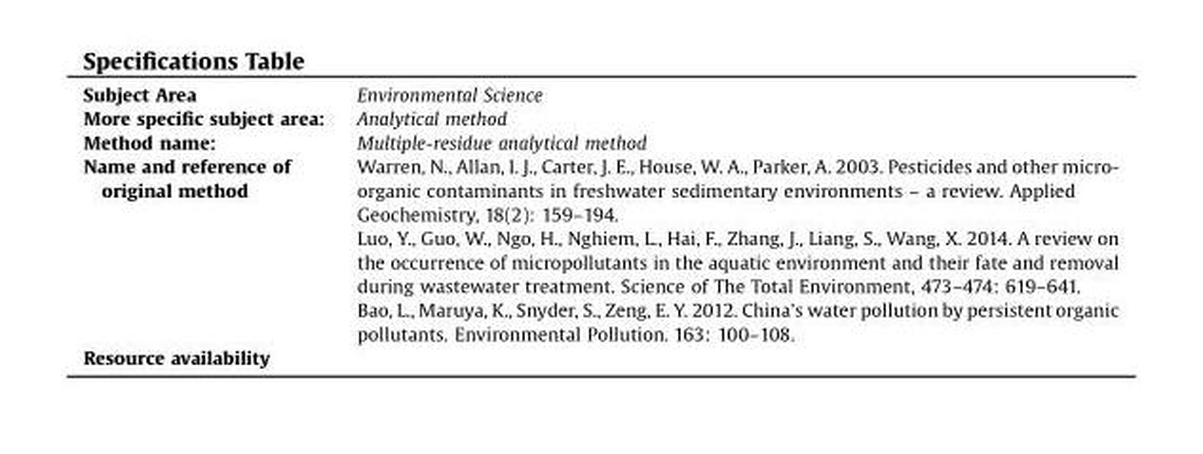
<table><tbody><tr><td>Subject Area</td><td>Environmental Science</td></tr><tr><td>More specific subject area:</td><td>Analytical method</td></tr><tr><td>Method name:</td><td>Multiple-residue analytical method</td></tr><tr><td>Name and reference of original method</td><td>Warren, N., Allan, I. J., Carter, J. E., House, W. A., Parker, A. 2003. Pesticides and other micro- organic contaminants in freshwater sedimentary environments – a review. Applied Geochemistry, 18(2): 159–194. Luo, Y., Guo, W., Ngo, H., Nghiem, L., Hai, F., Zhang, J., Liang, S., Wang, X. 2014. A review on the occurrence of micropollutants in the aquatic environment and their fate and removal during wastewater treatment. Science of The Total Environment, 473–474: 619–641. Bao, L., Maruya, K., Snyder, S., Zeng, E. Y. 2012. China’s water pollution by persistent organic pollutants. Environmental Pollution. 163: 100–108.</td></tr><tr><td>Resource availability</td><td></td></tr></tbody></table>